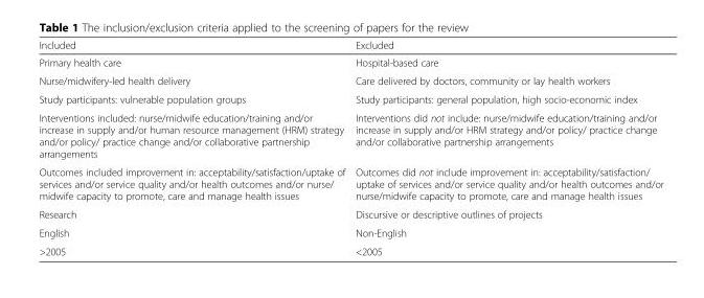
<table><thead><tr><td>Included</td><td>Excluded</td></tr></thead><tbody><tr><td>Primary health care</td><td>Hospital-based care</td></tr><tr><td>Nurse/midwifery-led health delivery</td><td>Care delivered by doctors, community or lay health workers</td></tr><tr><td>Study participants: vulnerable population groups</td><td>Study participants: general population, high socio-economic index</td></tr><tr><td>Interventions included: nurse/midwife education/training and/or increase in supply and/or human resource management (HRM) strategy and/or policy/ practice change and/or collaborative partnership arrangements</td><td>Interventions did not include: nurse/midwife education/training and/or increase in supply and/or HRM strategy and/or policy/ practice change and/or collaborative partnership arrangements</td></tr><tr><td>Outcomes included improvement in: acceptability/satisfaction/uptake of services and/or service quality and/or health outcomes and/or nurse/ midwife capacity to promote, care and manage health issues</td><td>Outcomes did not include improvement in: acceptability/satisfaction/ uptake of services and/or service quality and/or health outcomes and/or nurse/midwife capacity to promote, care and manage health issues</td></tr><tr><td>Research</td><td>Discursive or descriptive outlines of projects</td></tr><tr><td>English</td><td>Non-English</td></tr><tr><td>&gt;2005</td><td>&lt;2005</td></tr></tbody></table>